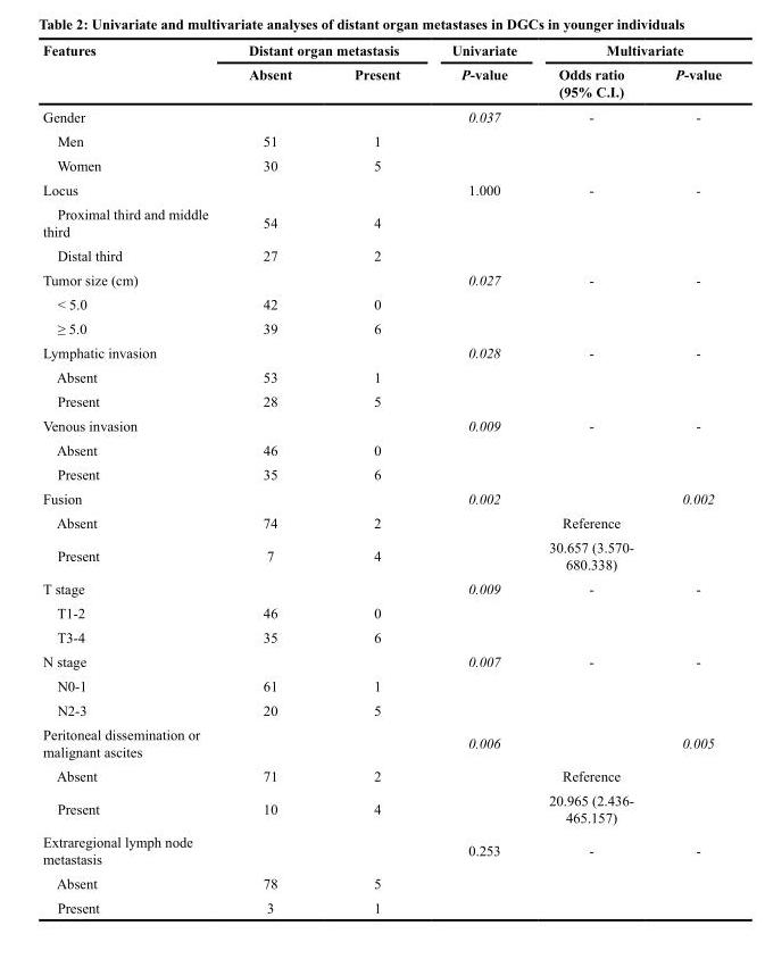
<table><thead><tr><td rowspan="2">Features</td><td colspan="2">Distant organ metastasis</td><td rowspan="2">Univariate P-value</td><td colspan="2">Multivariate</td></tr><tr><td>Absent</td><td>Present</td><td>Odds ratio (95% C.I.)</td><td>P-value</td></tr></thead><tbody><tr><td>Gender</td><td></td><td></td><td>0.037</td><td>-</td><td>-</td></tr><tr><td>Men</td><td>51</td><td>1</td><td></td><td></td><td></td></tr><tr><td>Women</td><td>30</td><td>5</td><td></td><td></td><td></td></tr><tr><td>Locus</td><td></td><td></td><td>1.000</td><td>-</td><td>-</td></tr><tr><td>Proximal third and middle third</td><td>54</td><td>4</td><td></td><td></td><td></td></tr><tr><td>Distal third</td><td>27</td><td>2</td><td></td><td></td><td></td></tr><tr><td>Tumor size (cm)</td><td></td><td></td><td>0.027</td><td>-</td><td>-</td></tr><tr><td>&lt; 5.0</td><td>42</td><td>0</td><td></td><td></td><td></td></tr><tr><td>≥ 5.0</td><td>39</td><td>6</td><td></td><td></td><td></td></tr><tr><td>Lymphatic invasion</td><td></td><td></td><td>0.028</td><td>-</td><td>-</td></tr><tr><td>Absent</td><td>53</td><td>1</td><td></td><td></td><td></td></tr><tr><td>Present</td><td>28</td><td>5</td><td></td><td></td><td></td></tr><tr><td>Venous invasion</td><td></td><td></td><td>0.009</td><td>-</td><td>-</td></tr><tr><td>Absent</td><td>46</td><td>0</td><td></td><td></td><td></td></tr><tr><td>Present</td><td>35</td><td>6</td><td></td><td></td><td></td></tr><tr><td>Fusion</td><td></td><td></td><td>0.002</td><td></td><td>0.002</td></tr><tr><td>Absent</td><td>74</td><td>2</td><td></td><td>Reference</td><td></td></tr><tr><td>Present</td><td>7</td><td>4</td><td></td><td>30.657 (3.570- 680.338)</td><td></td></tr><tr><td>T stage</td><td></td><td></td><td>0.009</td><td>-</td><td>-</td></tr><tr><td>T1-2</td><td>46</td><td>0</td><td></td><td></td><td></td></tr><tr><td>T3-4</td><td>35</td><td>6</td><td></td><td></td><td></td></tr><tr><td>N stage</td><td></td><td></td><td>0.007</td><td>-</td><td>-</td></tr><tr><td>N0-1</td><td>61</td><td>1</td><td></td><td></td><td></td></tr><tr><td>N2-3</td><td>20</td><td>5</td><td></td><td></td><td></td></tr><tr><td>Peritoneal dissemination or malignant ascites</td><td></td><td></td><td>0.006</td><td></td><td>0.005</td></tr><tr><td>Absent</td><td>71</td><td>2</td><td></td><td>Reference</td><td></td></tr><tr><td>Present</td><td>10</td><td>4</td><td></td><td>20.965 (2.436- 465.157)</td><td></td></tr><tr><td>Extraregional lymph node metastasis</td><td></td><td></td><td>0.253</td><td>-</td><td>-</td></tr><tr><td>Absent</td><td>78</td><td>5</td><td></td><td></td><td></td></tr><tr><td>Present</td><td>3</td><td>1</td><td></td><td></td><td></td></tr></tbody></table>